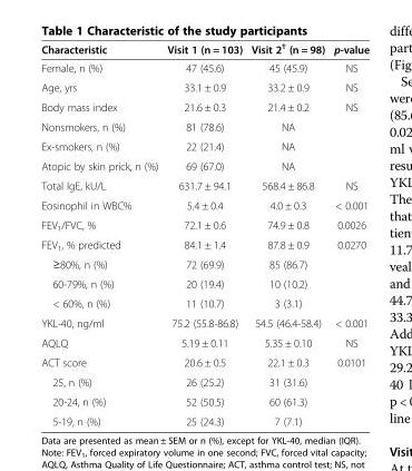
<table><thead><tr><td>Characteristic</td><td>Visit 1 (n = 103)</td><td>Visit 2<sup>†</sup> (n = 98)</td><td>p-value</td></tr></thead><tbody><tr><td>Female, n (%)</td><td>47 (45.6)</td><td>45 (45.9)</td><td>NS</td></tr><tr><td>Age, yrs</td><td>33.1 ± 0.9</td><td>33.2 ± 0.9</td><td>NS</td></tr><tr><td>Body mass index</td><td>21.6 ± 0.3</td><td>21.4 ± 0.2</td><td>NS</td></tr><tr><td>Nonsmokers, n (%)</td><td>81 (78.6)</td><td>NA</td><td></td></tr><tr><td>Ex-smokers, n (%)</td><td>22 (21.4)</td><td>NA</td><td></td></tr><tr><td>Atopic by skin prick, n (%)</td><td>69 (67.0)</td><td>NA</td><td></td></tr><tr><td>Total IgE, kU/L</td><td>631.7 ± 94.1</td><td>568.4 ± 86.8</td><td>NS</td></tr><tr><td>Eosinophil in WBC%</td><td>5.4 ± 0.4</td><td>4.0 ± 0.3</td><td>&lt; 0.001</td></tr><tr><td>FEV<sub>1</sub>/FVC, %</td><td>72.1 ± 0.6</td><td>74.9 ± 0.8</td><td>0.0026</td></tr><tr><td>FEV<sub>1</sub>, % predicted</td><td>84.1 ± 1.4</td><td>87.8 ± 0.9</td><td>0.0270</td></tr><tr><td>≥80%, n (%)</td><td>72 (69.9)</td><td>85 (86.7)</td><td></td></tr><tr><td>60-79%, n (%)</td><td>20 (19.4)</td><td>10 (10.2)</td><td></td></tr><tr><td>&lt; 60%, n (%)</td><td>11 (10.7)</td><td>3 (3.1)</td><td></td></tr><tr><td>YKL-40, ng/ml</td><td>75.2 (55.8-86.8)</td><td>54.5 (46.4-58.4)</td><td>&lt; 0.001</td></tr><tr><td>AQLQ</td><td>5.19 ± 0.11</td><td>5.35 ± 0.10</td><td>NS</td></tr><tr><td>ACT score</td><td>20.6 ± 0.5</td><td>22.1 ± 0.3</td><td>0.0101</td></tr><tr><td>25, n (%)</td><td>26 (25.2)</td><td>31 (31.6)</td><td></td></tr><tr><td>20-24, n (%)</td><td>52 (50.5)</td><td>60 (61.3)</td><td></td></tr><tr><td>5-19, n (%)</td><td>25 (24.3)</td><td>7 (7.1)</td><td></td></tr></tbody></table>